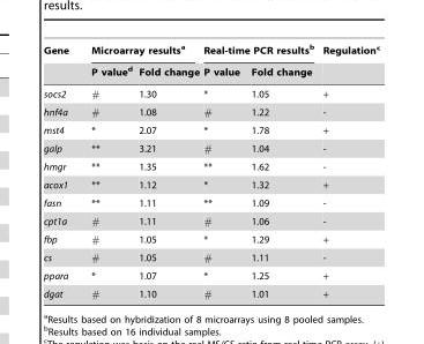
<table><thead><tr><td rowspan="2">Gene</td><td colspan="2">Microarray results<sup>a</sup></td><td colspan="2">Real-time PCR results<sup>b</sup></td><td rowspan="2">Regulation<sup>c</sup></td></tr><tr><td>P value<sup>d</sup></td><td>Fold change</td><td>P value</td><td>Fold change</td></tr></thead><tbody><tr><td>socs2</td><td>#</td><td>1.30</td><td>*</td><td>1.05</td><td>+</td></tr><tr><td>hnf4a</td><td>#</td><td>1.08</td><td>#</td><td>1.22</td><td>-</td></tr><tr><td>mst4</td><td>*</td><td>2.07</td><td>*</td><td>1.78</td><td>+</td></tr><tr><td>galp</td><td>**</td><td>3.21</td><td>#</td><td>1.04</td><td>-</td></tr><tr><td>hmgr</td><td>**</td><td>1.35</td><td>**</td><td>1.62</td><td>-</td></tr><tr><td>acox1</td><td>**</td><td>1.12</td><td>*</td><td>1.32</td><td>+</td></tr><tr><td>fasn</td><td>**</td><td>1.11</td><td>**</td><td>1.09</td><td>-</td></tr><tr><td>cpt1a</td><td>#</td><td>1.11</td><td>#</td><td>1.06</td><td>-</td></tr><tr><td>fbp</td><td>#</td><td>1.05</td><td>*</td><td>1.29</td><td>+</td></tr><tr><td>cs</td><td>#</td><td>1.05</td><td>#</td><td>1.11</td><td>-</td></tr><tr><td>ppara</td><td>*</td><td>1.07</td><td>*</td><td>1.25</td><td>+</td></tr><tr><td>dgat</td><td>#</td><td>1.10</td><td>#</td><td>1.01</td><td>+</td></tr></tbody></table>